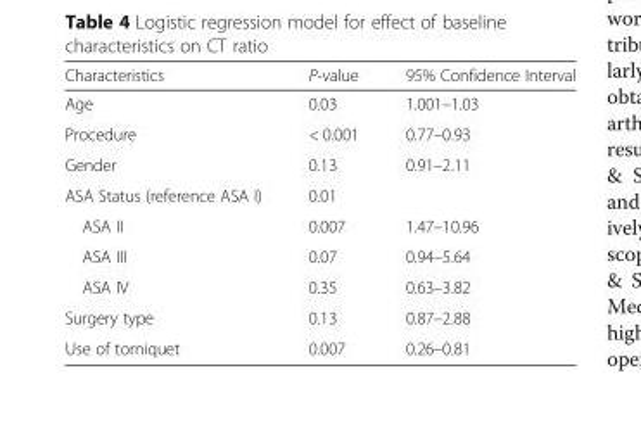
<table><thead><tr><td>Characteristics</td><td>P-value</td><td>95% Confidence Interval</td></tr></thead><tbody><tr><td>Age</td><td>0.03</td><td>1.001–1.03</td></tr><tr><td>Procedure</td><td>&lt; 0.001</td><td>0.77–0.93</td></tr><tr><td>Gender</td><td>0.13</td><td>0.91–2.11</td></tr><tr><td>ASA Status (reference ASA I)</td><td>0.01</td><td></td></tr><tr><td>ASA II</td><td>0.007</td><td>1.47–10.96</td></tr><tr><td>ASA III</td><td>0.07</td><td>0.94–5.64</td></tr><tr><td>ASA IV</td><td>0.35</td><td>0.63–3.82</td></tr><tr><td>Surgery type</td><td>0.13</td><td>0.87–2.88</td></tr><tr><td>Use of torniquet</td><td>0.007</td><td>0.26–0.81</td></tr></tbody></table>